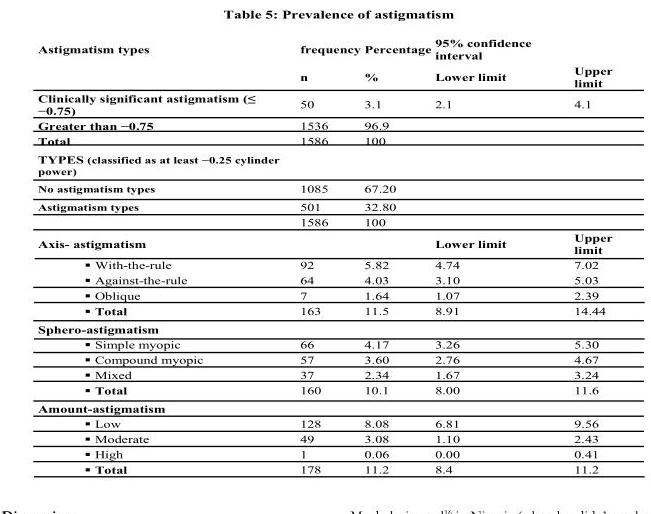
<table><thead><tr><td rowspan="2">Astigmatism types</td><td rowspan="2">frequency n</td><td rowspan="2">Percentage %</td><td rowspan="2">95% confidence interval Lower limit</td><td rowspan="2">Upper limit</td></tr><tr></tr></thead><tbody><tr><td>Clinically significant astigmatism (≤ −0.75)</td><td>50</td><td>3.1</td><td>2.1</td><td>4.1</td></tr><tr><td>Greater than −0.75</td><td>1536</td><td>96.9</td><td></td><td></td></tr><tr><td>Total</td><td>1586</td><td>100</td><td></td><td></td></tr><tr><td colspan="5">TYPES (classified as at least −0.25 cylinder power)</td></tr><tr><td>No astigmatism types</td><td>1085</td><td>67.20</td><td></td><td></td></tr><tr><td rowspan="2">Astigmatism types</td><td>501</td><td>32.80</td><td></td><td></td></tr><tr><td>1586</td><td>100</td><td></td><td></td></tr><tr><td>Axis- astigmatism</td><td></td><td></td><td>Lower limit</td><td>Upper limit</td></tr><tr><td>▪ With-the-rule</td><td>92</td><td>5.82</td><td>4.74</td><td>7.02</td></tr><tr><td>▪ Against-the-rule</td><td>64</td><td>4.03</td><td>3.10</td><td>5.03</td></tr><tr><td>▪ Oblique</td><td>7</td><td>1.64</td><td>1.07</td><td>2.39</td></tr><tr><td>▪ Total</td><td>163</td><td>11.5</td><td>8.91</td><td>14.44</td></tr><tr><td colspan="5">Sphero-astigmatism</td></tr><tr><td>▪ Simple myopic</td><td>66</td><td>4.17</td><td>3.26</td><td>5.30</td></tr><tr><td>▪ Compound myopic</td><td>57</td><td>3.60</td><td>2.76</td><td>4.67</td></tr><tr><td>▪ Mixed</td><td>37</td><td>2.34</td><td>1.67</td><td>3.24</td></tr><tr><td>▪ Total</td><td>160</td><td>10.1</td><td>8.00</td><td>11.6</td></tr><tr><td colspan="5">Amount-astigmatism</td></tr><tr><td>▪ Low</td><td>128</td><td>8.08</td><td>6.81</td><td>9.56</td></tr><tr><td>▪ Moderate</td><td>49</td><td>3.08</td><td>1.10</td><td>2.43</td></tr><tr><td>▪ High</td><td>1</td><td>0.06</td><td>0.00</td><td>0.41</td></tr><tr><td>▪ Total</td><td>178</td><td>11.2</td><td>8.4</td><td>11.2</td></tr></tbody></table>